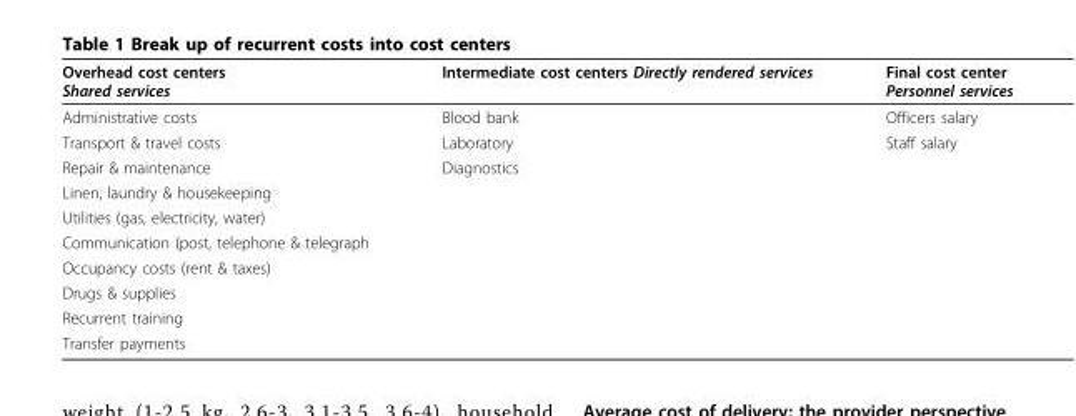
<table><thead><tr><td>Overhead cost centers Shared services</td><td>Intermediate cost centers Directly rendered services</td><td>Final cost center Personnel services</td></tr></thead><tbody><tr><td>Administrative costs</td><td>Blood bank</td><td>Officers salary</td></tr><tr><td>Transport &amp; travel costs</td><td>Laboratory</td><td>Staff salary</td></tr><tr><td>Repair &amp; maintenance</td><td>Diagnostics</td><td></td></tr><tr><td colspan="3">Linen, laundry &amp; housekeeping</td></tr><tr><td colspan="3">Utilities (gas, electricity, water)</td></tr><tr><td colspan="3">Communication (post, telephone &amp; telegraph</td></tr><tr><td colspan="3">Occupancy costs (rent &amp; taxes)</td></tr><tr><td colspan="3">Drugs &amp; supplies</td></tr><tr><td colspan="3">Recurrent training</td></tr><tr><td>Transfer payments</td><td></td><td></td></tr></tbody></table>